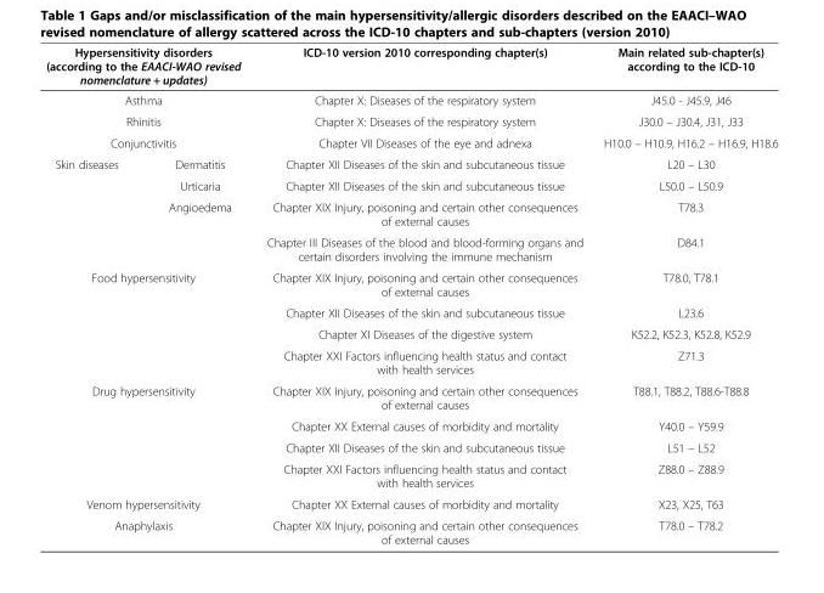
<table><thead><tr><td colspan="2">Hypersensitivity disorders (according to the EAACI-WAO revised nomenclature + updates)</td><td>ICD-10 version 2010 corresponding chapter(s)</td><td>Main related sub-chapter(s) according to the ICD-10</td></tr></thead><tbody><tr><td colspan="2">Asthma</td><td>Chapter X: Diseases of the respiratory system</td><td>J45.0 - J45.9, J46</td></tr><tr><td colspan="2">Rhinitis</td><td>Chapter X: Diseases of the respiratory system</td><td>J30.0 – J30.4, J31, J33</td></tr><tr><td colspan="2">Conjunctivitis</td><td>Chapter VII Diseases of the eye and adnexa</td><td>H10.0 – H10.9, H16.2 – H16.9, H18.6</td></tr><tr><td rowspan="4">Skin diseases</td><td>Dermatitis</td><td>Chapter XII Diseases of the skin and subcutaneous tissue</td><td>L20 – L30</td></tr><tr><td>Urticaria</td><td>Chapter XII Diseases of the skin and subcutaneous tissue</td><td>L50.0 – L50.9</td></tr><tr><td rowspan="2">Angioedema</td><td>Chapter XIX Injury, poisoning and certain other consequences of external causes</td><td>T78.3</td></tr><tr><td>Chapter III Diseases of the blood and blood-forming organs and certain disorders involving the immune mechanism</td><td>D84.1</td></tr><tr><td rowspan="4" colspan="2">Food hypersensitivity</td><td>Chapter XIX Injury, poisoning and certain other consequences of external causes</td><td>T78.0, T78.1</td></tr><tr><td>Chapter XII Diseases of the skin and subcutaneous tissue</td><td>L23.6</td></tr><tr><td>Chapter XI Diseases of the digestive system</td><td>K52.2, K52.3, K52.8, K52.9</td></tr><tr><td>Chapter XXI Factors influencing health status and contact with health services</td><td>Z71.3</td></tr><tr><td rowspan="4" colspan="2">Drug hypersensitivity</td><td>Chapter XIX Injury, poisoning and certain other consequences of external causes</td><td>T88.1, T88.2, T88.6-T88.8</td></tr><tr><td>Chapter XX External causes of morbidity and mortality</td><td>Y40.0 – Y59.9</td></tr><tr><td>Chapter XII Diseases of the skin and subcutaneous tissue</td><td>L51 – L52</td></tr><tr><td>Chapter XXI Factors influencing health status and contact with health services</td><td>Z88.0 – Z88.9</td></tr><tr><td colspan="2">Venom hypersensitivity</td><td>Chapter XX External causes of morbidity and mortality</td><td>X23, X25, T63</td></tr><tr><td colspan="2">Anaphylaxis</td><td>Chapter XIX Injury, poisoning and certain other consequences of external causes</td><td>T78.0 – T78.2</td></tr></tbody></table>